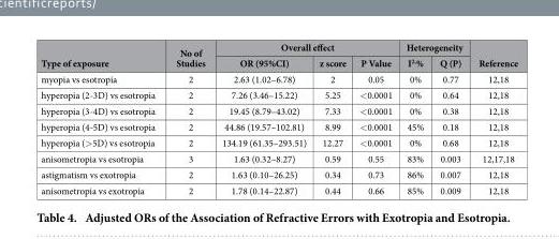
<table><thead><tr><td rowspan="2">Type of exposure</td><td rowspan="2">No of Studies</td><td colspan="3">Overall effect</td><td colspan="2">Heterogeneity</td><td rowspan="2">Reference</td></tr><tr><td>OR (95%CI)</td><td>z score</td><td>P Value</td><td>I<sup>2,</sup>%</td><td>Q (P)</td></tr></thead><tbody><tr><td>myopia vs esotropia</td><td>2</td><td>2.63 (1.02–6.78)</td><td>2</td><td>0.05</td><td>0%</td><td>0.77</td><td>12,18</td></tr><tr><td>hyperopia (2-3D) vs esotropia</td><td>2</td><td>7.26 (3.46–15.22)</td><td>5.25</td><td>&lt; 0.0001</td><td>0%</td><td>0.64</td><td>12,18</td></tr><tr><td>hyperopia (3-4D) vs esotropia</td><td>2</td><td>19.45 (8.79–43.02)</td><td>7.33</td><td>&lt; 0.0001</td><td>0%</td><td>0.38</td><td>12,18</td></tr><tr><td>hyperopia (4-5D) vs esotropia</td><td>2</td><td>44.86 (19.57–102.81)</td><td>8.99</td><td>&lt; 0.0001</td><td>45%</td><td>0.18</td><td>12,18</td></tr><tr><td>hyperopia (&gt; 5D) vs esotropia</td><td>2</td><td>134.19 (61.35–293.51)</td><td>12.27</td><td>&lt; 0.0001</td><td>0%</td><td>0.68</td><td>12,18</td></tr><tr><td>anisometropia vs esotropia</td><td>3</td><td>1.63 (0.32–8.27)</td><td>0.59</td><td>0.55</td><td>83%</td><td>0.003</td><td>12,17,18</td></tr><tr><td>astigmatism vs exotropia</td><td>2</td><td>1.63 (0.10–26.25)</td><td>0.34</td><td>0.73</td><td>86%</td><td>0.007</td><td>12,18</td></tr><tr><td>anisometropia vs exotropia</td><td>2</td><td>1.78 (0.14–22.87)</td><td>0.44</td><td>0.66</td><td>85%</td><td>0.009</td><td>12,18</td></tr></tbody></table>